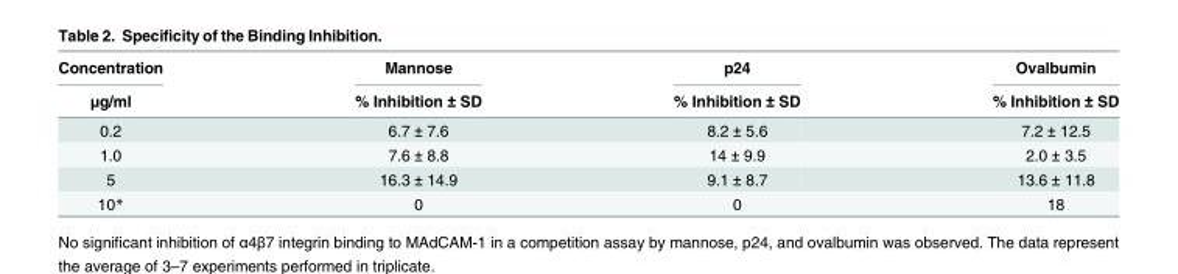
<table><thead><tr><td rowspan="2">Concentration μg/ml</td><td rowspan="2">Mannose % Inhibition ± SD</td><td rowspan="2">p24 % Inhibition ± SD</td><td rowspan="2">Ovalbumin % Inhibition ± SD</td></tr><tr></tr></thead><tbody><tr><td>0.2</td><td>6.7 ± 7.6</td><td>8.2 ± 5.6</td><td>7.2 ± 12.5</td></tr><tr><td>1.0</td><td>7.6 ± 8.8</td><td>14 ± 9.9</td><td>2.0 ± 3.5</td></tr><tr><td>5</td><td>16.3 ± 14.9</td><td>9.1 ± 8.7</td><td>13.6 ± 11.8</td></tr><tr><td>10*</td><td>0</td><td>0</td><td>18</td></tr></tbody></table>